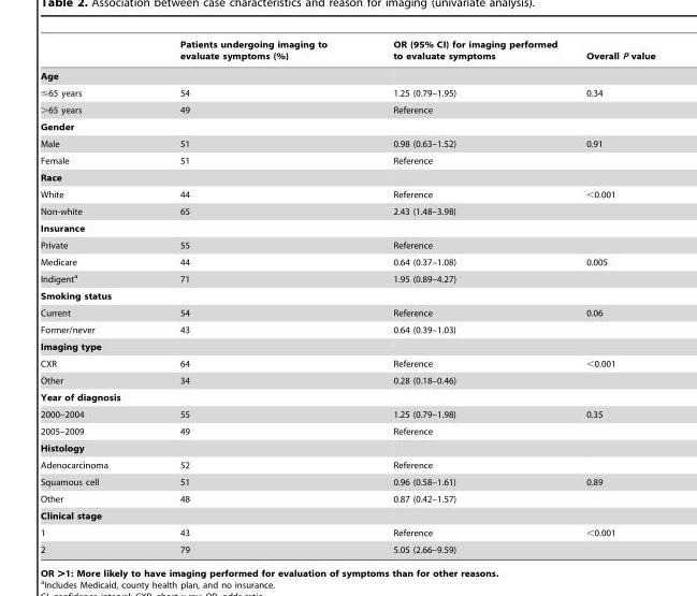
<table><thead><tr><td></td><td>Patients undergoing imaging to evaluate symptoms (%)</td><td>OR (95% CI) for imaging performed to evaluate symptoms</td><td>Overall P value</td></tr></thead><tbody><tr><td colspan="4">Age</td></tr><tr><td>≤65 years</td><td>54</td><td>1.25 (0.79–1.95)</td><td>0.34</td></tr><tr><td>&gt;65 years</td><td>49</td><td>Reference</td><td></td></tr><tr><td colspan="4">Gender</td></tr><tr><td>Male</td><td>51</td><td>0.98 (0.63–1.52)</td><td>0.91</td></tr><tr><td>Female</td><td>51</td><td>Reference</td><td></td></tr><tr><td colspan="4">Race</td></tr><tr><td>White</td><td>44</td><td>Reference</td><td>&lt;0.001</td></tr><tr><td>Non-white</td><td>65</td><td>2.43 (1.48–3.98)</td><td></td></tr><tr><td colspan="4">Insurance</td></tr><tr><td>Private</td><td>55</td><td>Reference</td><td></td></tr><tr><td>Medicare</td><td>44</td><td>0.64 (0.37–1.08)</td><td>0.005</td></tr><tr><td>Indigent<sup>a</sup></td><td>71</td><td>1.95 (0.89–4.27)</td><td></td></tr><tr><td colspan="4">Smoking status</td></tr><tr><td>Current</td><td>54</td><td>Reference</td><td>0.06</td></tr><tr><td>Former/never</td><td>43</td><td>0.64 (0.39–1.03)</td><td></td></tr><tr><td colspan="4">Imaging type</td></tr><tr><td>CXR</td><td>64</td><td>Reference</td><td>&lt;0.001</td></tr><tr><td>Other</td><td>34</td><td>0.28 (0.18–0.46)</td><td></td></tr><tr><td colspan="4">Year of diagnosis</td></tr><tr><td>2000–2004</td><td>55</td><td>1.25 (0.79–1.98)</td><td>0.35</td></tr><tr><td>2005–2009</td><td>49</td><td>Reference</td><td></td></tr><tr><td colspan="4">Histology</td></tr><tr><td>Adenocarcinoma</td><td>52</td><td>Reference</td><td></td></tr><tr><td>Squamous cell</td><td>51</td><td>0.96 (0.58–1.61)</td><td>0.89</td></tr><tr><td>Other</td><td>48</td><td>0.87 (0.42–1.57)</td><td></td></tr><tr><td colspan="4">Clinical stage</td></tr><tr><td>1</td><td>43</td><td>Reference</td><td>&lt;0.001</td></tr><tr><td>2</td><td>79</td><td>5.05 (2.66–9.59)</td><td></td></tr></tbody></table>